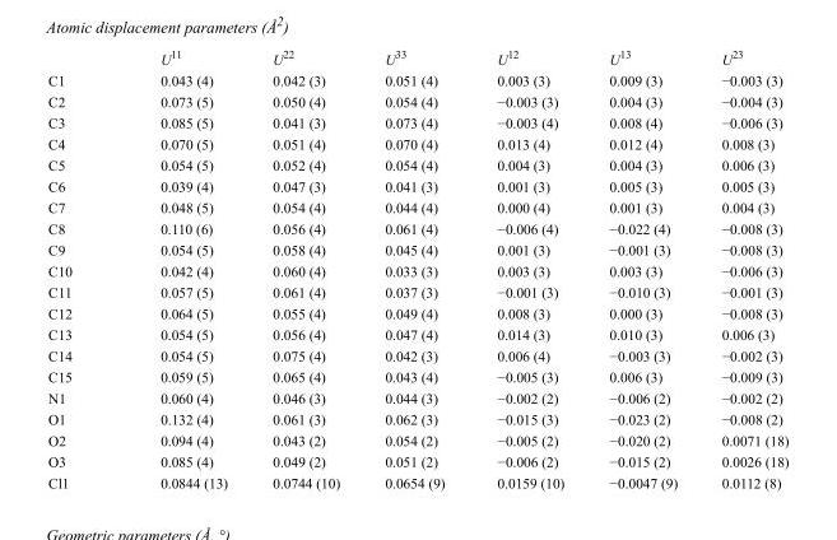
<table><thead><tr><td></td><td>U<sup>11</sup></td><td>U<sup>22</sup></td><td>U<sup>33</sup></td><td>U<sup>12</sup></td><td>U<sup>13</sup></td><td>U<sup>23</sup></td></tr></thead><tbody><tr><td>C1</td><td>0.043 (4)</td><td>0.042 (3)</td><td>0.051 (4)</td><td>0.003 (3)</td><td>0.009 (3)</td><td>−0.003 (3)</td></tr><tr><td>C2</td><td>0.073 (5)</td><td>0.050 (4)</td><td>0.054 (4)</td><td>−0.003 (3)</td><td>0.004 (3)</td><td>−0.004 (3)</td></tr><tr><td>C3</td><td>0.085 (5)</td><td>0.041 (3)</td><td>0.073 (4)</td><td>−0.003 (4)</td><td>0.008 (4)</td><td>−0.006 (3)</td></tr><tr><td>C4</td><td>0.070 (5)</td><td>0.051 (4)</td><td>0.070 (4)</td><td>0.013 (4)</td><td>0.012 (4)</td><td>0.008 (3)</td></tr><tr><td>C5</td><td>0.054 (5)</td><td>0.052 (4)</td><td>0.054 (4)</td><td>0.004 (3)</td><td>0.004 (3)</td><td>0.006 (3)</td></tr><tr><td>C6</td><td>0.039 (4)</td><td>0.047 (3)</td><td>0.041 (3)</td><td>0.001 (3)</td><td>0.005 (3)</td><td>0.005 (3)</td></tr><tr><td>C7</td><td>0.048 (5)</td><td>0.054 (4)</td><td>0.044 (4)</td><td>0.000 (4)</td><td>0.001 (3)</td><td>0.004 (3)</td></tr><tr><td>C8</td><td>0.110 (6)</td><td>0.056 (4)</td><td>0.061 (4)</td><td>−0.006 (4)</td><td>−0.022 (4)</td><td>−0.008 (3)</td></tr><tr><td>C9</td><td>0.054 (5)</td><td>0.058 (4)</td><td>0.045 (4)</td><td>0.001 (3)</td><td>−0.001 (3)</td><td>−0.008 (3)</td></tr><tr><td>C10</td><td>0.042 (4)</td><td>0.060 (4)</td><td>0.033 (3)</td><td>0.003 (3)</td><td>0.003 (3)</td><td>−0.006 (3)</td></tr><tr><td>C11</td><td>0.057 (5)</td><td>0.061 (4)</td><td>0.037 (3)</td><td>−0.001 (3)</td><td>−0.010 (3)</td><td>−0.001 (3)</td></tr><tr><td>C12</td><td>0.064 (5)</td><td>0.055 (4)</td><td>0.049 (4)</td><td>0.008 (3)</td><td>0.000 (3)</td><td>−0.008 (3)</td></tr><tr><td>C13</td><td>0.054 (5)</td><td>0.056 (4)</td><td>0.047 (4)</td><td>0.014 (3)</td><td>0.010 (3)</td><td>0.006 (3)</td></tr><tr><td>C14</td><td>0.054 (5)</td><td>0.075 (4)</td><td>0.042 (3)</td><td>0.006 (4)</td><td>−0.003 (3)</td><td>−0.002 (3)</td></tr><tr><td>C15</td><td>0.059 (5)</td><td>0.065 (4)</td><td>0.043 (4)</td><td>−0.005 (3)</td><td>0.006 (3)</td><td>−0.009 (3)</td></tr><tr><td>N1</td><td>0.060 (4)</td><td>0.046 (3)</td><td>0.044 (3)</td><td>−0.002 (2)</td><td>−0.006 (2)</td><td>−0.002 (2)</td></tr><tr><td>O1</td><td>0.132 (4)</td><td>0.061 (3)</td><td>0.062 (3)</td><td>−0.015 (3)</td><td>−0.023 (2)</td><td>−0.008 (2)</td></tr><tr><td>O2</td><td>0.094 (4)</td><td>0.043 (2)</td><td>0.054 (2)</td><td>−0.005 (2)</td><td>−0.020 (2)</td><td>0.0071 (18)</td></tr><tr><td>O3</td><td>0.085 (4)</td><td>0.049 (2)</td><td>0.051 (2)</td><td>−0.006 (2)</td><td>−0.015 (2)</td><td>0.0026 (18)</td></tr><tr><td>Cl1</td><td>0.0844 (13)</td><td>0.0744 (10)</td><td>0.0654 (9)</td><td>0.0159 (10)</td><td>−0.0047 (9)</td><td>0.0112 (8)</td></tr></tbody></table>